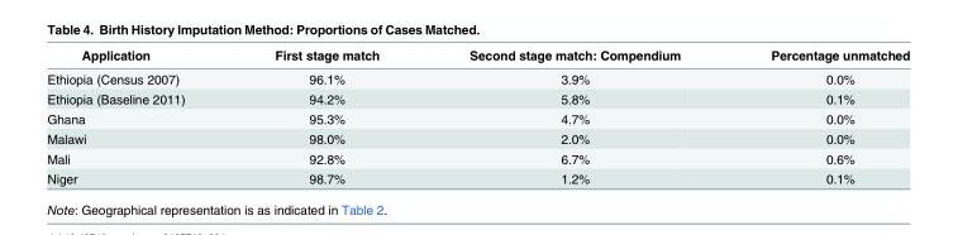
<table><thead><tr><td>Application</td><td>First stage match</td><td>Second stage match: Compendium</td><td>Percentage unmatched</td></tr></thead><tbody><tr><td>Ethiopia (Census 2007)</td><td>96.1%</td><td>3.9%</td><td>0.0%</td></tr><tr><td>Ethiopia (Baseline 2011)</td><td>94.2%</td><td>5.8%</td><td>0.1%</td></tr><tr><td>Ghana</td><td>95.3%</td><td>4.7%</td><td>0.0%</td></tr><tr><td>Malawi</td><td>98.0%</td><td>2.0%</td><td>0.0%</td></tr><tr><td>Mali</td><td>92.8%</td><td>6.7%</td><td>0.6%</td></tr><tr><td>Niger</td><td>98.7%</td><td>1.2%</td><td>0.1%</td></tr></tbody></table>